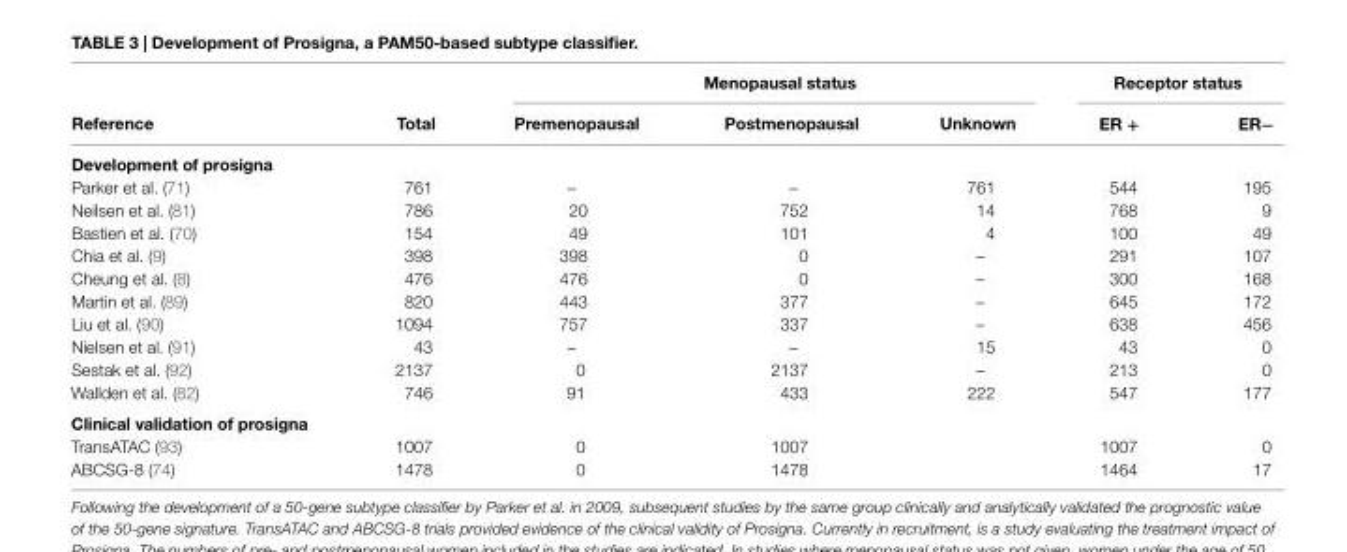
<table><thead><tr><td rowspan="2">Reference</td><td rowspan="2">Total</td><td colspan="3">Menopausal status</td><td colspan="2">Receptor status</td></tr><tr><td>Premenopausal</td><td>Postmenopausal</td><td>Unknown</td><td>eR +</td><td>eR−</td></tr></thead><tbody><tr><td colspan="7">Development of prosigna</td></tr><tr><td>Parker et al. (71)</td><td>761</td><td>–</td><td>–</td><td>761</td><td>544</td><td>195</td></tr><tr><td>Neilsen et al. (81)</td><td>786</td><td>20</td><td>752</td><td>14</td><td>768</td><td>9</td></tr><tr><td>Bastien et al. (70)</td><td>154</td><td>49</td><td>101</td><td>4</td><td>100</td><td>49</td></tr><tr><td>Chia et al. (9)</td><td>398</td><td>398</td><td>0</td><td>–</td><td>291</td><td>107</td></tr><tr><td>Cheung et al. (8)</td><td>476</td><td>476</td><td>0</td><td>–</td><td>300</td><td>168</td></tr><tr><td>Martin et al. (89)</td><td>820</td><td>443</td><td>377</td><td>–</td><td>645</td><td>172</td></tr><tr><td>Liu et al. (90)</td><td>1094</td><td>757</td><td>337</td><td>–</td><td>638</td><td>456</td></tr><tr><td>Nielsen et al. (91)</td><td>43</td><td>–</td><td>–</td><td>15</td><td>43</td><td>0</td></tr><tr><td>Sestak et al. (92)</td><td>2137</td><td>0</td><td>2137</td><td>–</td><td>213</td><td>0</td></tr><tr><td>Wallden et al. (82)</td><td>746</td><td>91</td><td>433</td><td>222</td><td>547</td><td>177</td></tr><tr><td colspan="7">Clinical validation of prosigna</td></tr><tr><td>TransATAC (93)</td><td>1007</td><td>0</td><td>1007</td><td></td><td>1007</td><td>0</td></tr><tr><td>ABCSG-8 (74)</td><td>1478</td><td>0</td><td>1478</td><td></td><td>1464</td><td>17</td></tr></tbody></table>